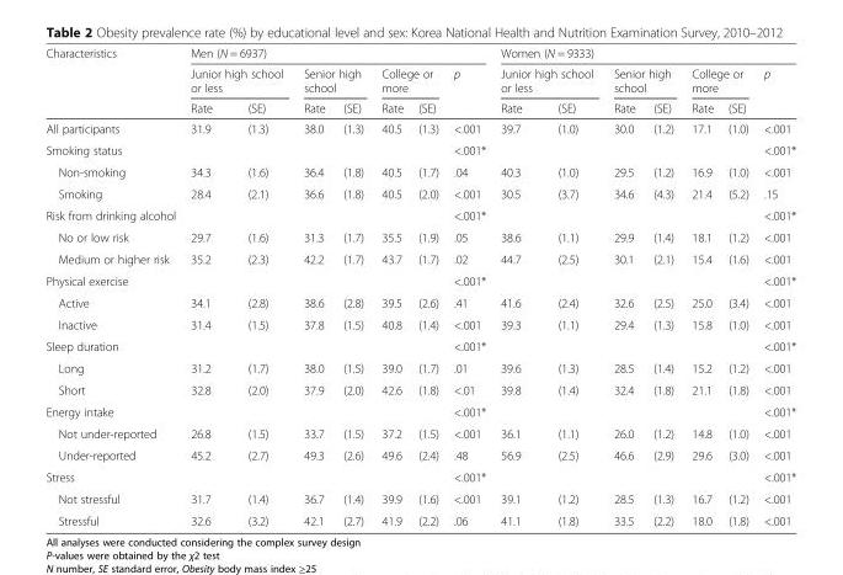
<table><thead><tr><td rowspan="3">Characteristics</td><td colspan="7">Men (N = 6937)</td><td colspan="7">Women (N = 9333)</td></tr><tr><td colspan="2">Junior high school or less</td><td colspan="2">Senior high school</td><td colspan="2">College or more</td><td rowspan="2">p</td><td colspan="2">Junior high school or less</td><td colspan="2">Senior high school</td><td colspan="2">College or more</td><td rowspan="2">p</td></tr><tr><td>Rate</td><td>(SE)</td><td>Rate</td><td>(SE)</td><td>Rate</td><td>(SE)</td><td>Rate</td><td>(SE)</td><td>Rate</td><td>(SE)</td><td>Rate</td><td>(SE)</td></tr></thead><tbody><tr><td>All participants</td><td>31.9</td><td>(1.3)</td><td>38.0</td><td>(1.3)</td><td>40.5</td><td>(1.3)</td><td>&lt;.001</td><td>39.7</td><td>(1.0)</td><td>30.0</td><td>(1.2)</td><td>17.1</td><td>(1.0)</td><td>&lt;.001</td></tr><tr><td>Smoking status</td><td></td><td></td><td></td><td></td><td></td><td></td><td>&lt;.001*</td><td></td><td></td><td></td><td></td><td></td><td></td><td>&lt;.001*</td></tr><tr><td>Non-smoking</td><td>34.3</td><td>(1.6)</td><td>36.4</td><td>(1.8)</td><td>40.5</td><td>(1.7)</td><td>.04</td><td>40.3</td><td>(1.0)</td><td>29.5</td><td>(1.2)</td><td>16.9</td><td>(1.0)</td><td>&lt;.001</td></tr><tr><td>Smoking</td><td>28.4</td><td>(2.1)</td><td>36.6</td><td>(1.8)</td><td>40.5</td><td>(2.0)</td><td>&lt;.001</td><td>30.5</td><td>(3.7)</td><td>34.6</td><td>(4.3)</td><td>21.4</td><td>(5.2)</td><td>.15</td></tr><tr><td>Risk from drinking alcohol</td><td></td><td></td><td></td><td></td><td></td><td></td><td>&lt;.001*</td><td></td><td></td><td></td><td></td><td></td><td></td><td>&lt;.001*</td></tr><tr><td>No or low risk</td><td>29.7</td><td>(1.6)</td><td>31.3</td><td>(1.7)</td><td>35.5</td><td>(1.9)</td><td>.05</td><td>38.6</td><td>(1.1)</td><td>29.9</td><td>(1.4)</td><td>18.1</td><td>(1.2)</td><td>&lt;.001</td></tr><tr><td>Medium or higher risk</td><td>35.2</td><td>(2.3)</td><td>42.2</td><td>(1.7)</td><td>43.7</td><td>(1.7)</td><td>.02</td><td>44.7</td><td>(2.5)</td><td>30.1</td><td>(2.1)</td><td>15.4</td><td>(1.6)</td><td>&lt;.001</td></tr><tr><td>Physical exercise</td><td></td><td></td><td></td><td></td><td></td><td></td><td>&lt;.001*</td><td></td><td></td><td></td><td></td><td></td><td></td><td>&lt;.001*</td></tr><tr><td>Active</td><td>34.1</td><td>(2.8)</td><td>38.6</td><td>(2.8)</td><td>39.5</td><td>(2.6)</td><td>.41</td><td>41.6</td><td>(2.4)</td><td>32.6</td><td>(2.5)</td><td>25.0</td><td>(3.4)</td><td>&lt;.001</td></tr><tr><td>Inactive</td><td>31.4</td><td>(1.5)</td><td>37.8</td><td>(1.5)</td><td>40.8</td><td>(1.4)</td><td>&lt;.001</td><td>39.3</td><td>(1.1)</td><td>29.4</td><td>(1.3)</td><td>15.8</td><td>(1.0)</td><td>&lt;.001</td></tr><tr><td>Sleep duration</td><td></td><td></td><td></td><td></td><td></td><td></td><td>&lt;.001*</td><td></td><td></td><td></td><td></td><td></td><td></td><td>&lt;.001*</td></tr><tr><td>Long</td><td>31.2</td><td>(1.7)</td><td>38.0</td><td>(1.5)</td><td>39.0</td><td>(1.7)</td><td>.01</td><td>39.6</td><td>(1.3)</td><td>28.5</td><td>(1.4)</td><td>15.2</td><td>(1.2)</td><td>&lt;.001</td></tr><tr><td>Short</td><td>32.8</td><td>(2.0)</td><td>37.9</td><td>(2.0)</td><td>42.6</td><td>(1.8)</td><td>&lt;.01</td><td>39.8</td><td>(1.4)</td><td>32.4</td><td>(1.8)</td><td>21.1</td><td>(1.8)</td><td>&lt;.001</td></tr><tr><td>Energy intake</td><td></td><td></td><td></td><td></td><td></td><td></td><td>&lt;.001*</td><td></td><td></td><td></td><td></td><td></td><td></td><td>&lt;.001*</td></tr><tr><td>Not under-reported</td><td>26.8</td><td>(1.5)</td><td>33.7</td><td>(1.5)</td><td>37.2</td><td>(1.5)</td><td>&lt;.001</td><td>36.1</td><td>(1.1)</td><td>26.0</td><td>(1.2)</td><td>14.8</td><td>(1.0)</td><td>&lt;.001</td></tr><tr><td>Under-reported</td><td>45.2</td><td>(2.7)</td><td>49.3</td><td>(2.6)</td><td>49.6</td><td>(2.4)</td><td>.48</td><td>56.9</td><td>(2.5)</td><td>46.6</td><td>(2.9)</td><td>29.6</td><td>(3.0)</td><td>&lt;.001</td></tr><tr><td>Stress</td><td></td><td></td><td></td><td></td><td></td><td></td><td>&lt;.001*</td><td></td><td></td><td></td><td></td><td></td><td></td><td>&lt;.001*</td></tr><tr><td>Not stressful</td><td>31.7</td><td>(1.4)</td><td>36.7</td><td>(1.4)</td><td>39.9</td><td>(1.6)</td><td>&lt;.001</td><td>39.1</td><td>(1.2)</td><td>28.5</td><td>(1.3)</td><td>16.7</td><td>(1.2)</td><td>&lt;.001</td></tr><tr><td>Stressful</td><td>32.6</td><td>(3.2)</td><td>42.1</td><td>(2.7)</td><td>41.9</td><td>(2.2)</td><td>.06</td><td>41.1</td><td>(1.8)</td><td>33.5</td><td>(2.2)</td><td>18.0</td><td>(1.8)</td><td>&lt;.001</td></tr></tbody></table>